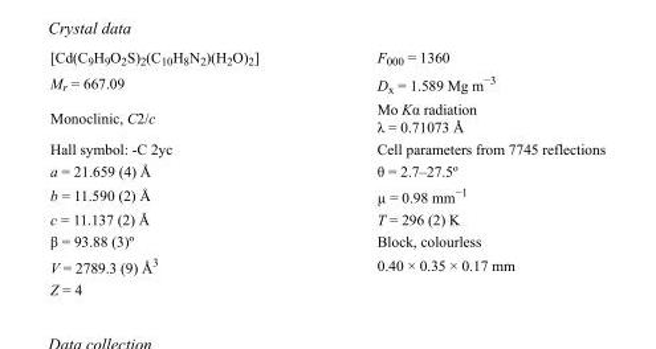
<table><tbody><tr><td>[Cd(C<sub>9</sub>H<sub>9</sub>O<sub>2</sub>S)<sub>2</sub>(C<sub>10</sub>H<sub>8</sub>N<sub>2</sub>)(H<sub>2</sub>O)<sub>2</sub>]</td><td>F<sub>000</sub> = 1360</td></tr><tr><td>M<sub>r</sub> = 667.09</td><td>D<sub>x</sub> = 1.589 Mg m<sup>−3</sup></td></tr><tr><td>Monoclinic, C2/c</td><td>Mo Kα radiation λ = 0.71073 Å</td></tr><tr><td>Hall symbol: -C 2yc</td><td>Cell parameters from 7745 reflections</td></tr><tr><td>a = 21.659 (4) Å</td><td>θ = 2.7–27.5º</td></tr><tr><td>b = 11.590 (2) Å</td><td>µ = 0.98 mm<sup>−1</sup></td></tr><tr><td>c = 11.137 (2) Å</td><td>T = 296 (2) K</td></tr><tr><td>β = 93.88 (3)º</td><td>Block, colourless</td></tr><tr><td>V = 2789.3 (9) Å<sup>3</sup></td><td>0.40 × 0.35 × 0.17 mm</td></tr><tr><td>Z = 4</td><td></td></tr></tbody></table>